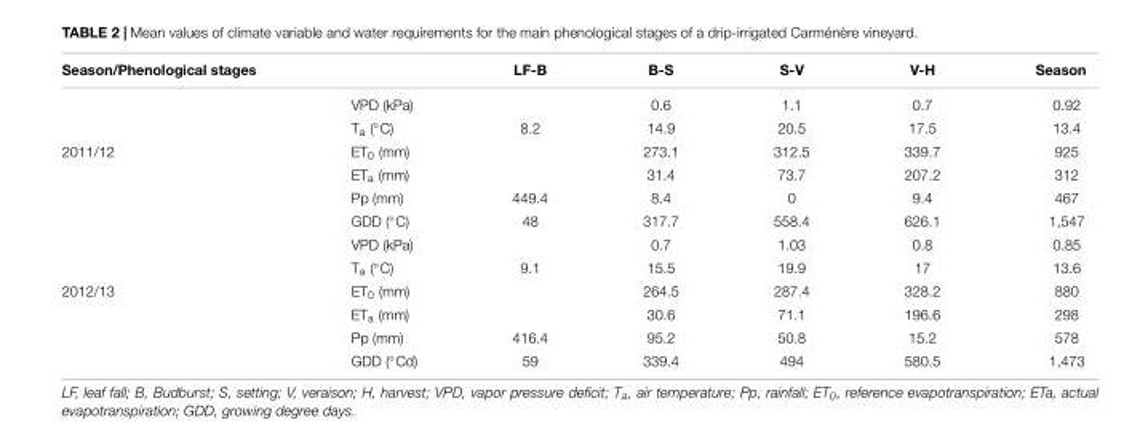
<table><thead><tr><td>Season/Phenological stages</td><td></td><td>LF-B</td><td>B-S</td><td>S-V</td><td>V-H</td><td>Season</td></tr></thead><tbody><tr><td></td><td>VPD (kPa)</td><td></td><td>0.6</td><td>1.1</td><td>0.7</td><td>0.92</td></tr><tr><td></td><td>Ta (◦C)</td><td>8.2</td><td>14.9</td><td>20.5</td><td>17.5</td><td>13.4</td></tr><tr><td rowspan="6">2011/12</td><td>ET<sub>0</sub> (mm)</td><td></td><td>273.1</td><td>312.5</td><td>339.7</td><td>925</td></tr><tr><td>ET<sub>a</sub> (mm)</td><td></td><td>31.4</td><td>73.7</td><td>207.2</td><td>312</td></tr><tr><td>Pp (mm)</td><td>449.4</td><td>8.4</td><td>0</td><td>9.4</td><td>467</td></tr><tr><td>GDD (◦C)</td><td>48</td><td>317.7</td><td>558.4</td><td>626.1</td><td>1,547</td></tr><tr><td>VPD (kPa)</td><td></td><td>0.7</td><td>1.03</td><td>0.8</td><td>0.85</td></tr><tr><td>Ta (◦C)</td><td>9.1</td><td>15.5</td><td>19.9</td><td>17</td><td>13.6</td></tr><tr><td rowspan="4">2012/13</td><td>ET<sub>0</sub> (mm)</td><td></td><td>264.5</td><td>287.4</td><td>328.2</td><td>880</td></tr><tr><td>ET<sub>a</sub> (mm)</td><td></td><td>30.6</td><td>71.1</td><td>196.6</td><td>298</td></tr><tr><td>Pp (mm)</td><td>416.4</td><td>95.2</td><td>50.8</td><td>15.2</td><td>578</td></tr><tr><td>GDD (◦Cd)</td><td>59</td><td>339.4</td><td>494</td><td>580.5</td><td>1,473</td></tr></tbody></table>